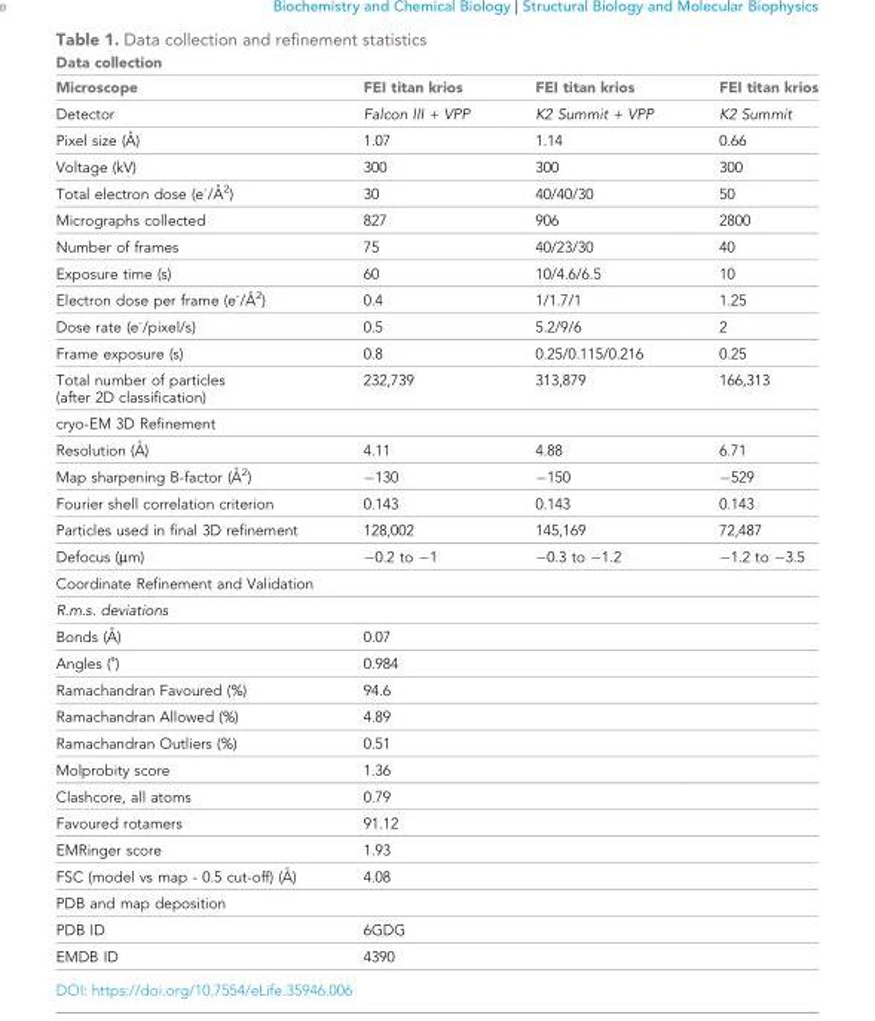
<table><thead><tr><td colspan="4">Data collection</td></tr><tr><td>Microscope</td><td>FEI titan krios</td><td>FEI titan krios</td><td>FEI titan krios</td></tr></thead><tbody><tr><td>Detector</td><td>Falcon III + VPP</td><td>K2 Summit + VPP</td><td>K2 Summit</td></tr><tr><td>Pixel size (A˚ )</td><td>1.07</td><td>1.14</td><td>0.66</td></tr><tr><td>Voltage (kV)</td><td>300</td><td>300</td><td>300</td></tr><tr><td>Total electron dose (e-/A˚ 2)</td><td>30</td><td>40/40/30</td><td>50</td></tr><tr><td>Micrographs collected</td><td>827</td><td>906</td><td>2800</td></tr><tr><td>Number of frames</td><td>75</td><td>40/23/30</td><td>40</td></tr><tr><td>Exposure time (s)</td><td>60</td><td>10/4.6/6.5</td><td>10</td></tr><tr><td>Electron dose per frame (e-/A˚ 2)</td><td>0.4</td><td>1/1.7/1</td><td>1.25</td></tr><tr><td>Dose rate (e<sup>-</sup>/pixel/s)</td><td>0.5</td><td>5.2/9/6</td><td>2</td></tr><tr><td>Frame exposure (s)</td><td>0.8</td><td>0.25/0.115/0.216</td><td>0.25</td></tr><tr><td>Total number of particles (after 2D classification)</td><td>232,739</td><td>313,879</td><td>166,313</td></tr><tr><td colspan="4">cryo-EM 3D Refinement</td></tr><tr><td>Resolution (A˚ )</td><td>4.11</td><td>4.88</td><td>6.71</td></tr><tr><td>Map sharpening B-factor (A˚ 2)</td><td>−130</td><td>−150</td><td>−529</td></tr><tr><td>Fourier shell correlation criterion</td><td>0.143</td><td>0.143</td><td>0.143</td></tr><tr><td>Particles used in final 3D refinement</td><td>128,002</td><td>145,169</td><td>72,487</td></tr><tr><td>Defocus (μm)</td><td>−0.2 to −1</td><td>−0.3 to −1.2</td><td>−1.2 to −3.5</td></tr><tr><td colspan="4">Coordinate Refinement and Validation</td></tr><tr><td colspan="4">R.m.s. deviations</td></tr><tr><td>Bonds (A˚ )</td><td>0.07</td><td></td><td></td></tr><tr><td>Angles (˚)</td><td>0.984</td><td></td><td></td></tr><tr><td>Ramachandran Favoured (%)</td><td>94.6</td><td></td><td></td></tr><tr><td>Ramachandran Allowed (%)</td><td>4.89</td><td></td><td></td></tr><tr><td>Ramachandran Outliers (%)</td><td>0.51</td><td></td><td></td></tr><tr><td>Molprobity score</td><td>1.36</td><td></td><td></td></tr><tr><td>Clashcore, all atoms</td><td>0.79</td><td></td><td></td></tr><tr><td>Favoured rotamers</td><td>91.12</td><td></td><td></td></tr><tr><td>EMRinger score</td><td>1.93</td><td></td><td></td></tr><tr><td>FSC (model vs map - 0.5 cut-off) (A˚ )</td><td>4.08</td><td></td><td></td></tr><tr><td colspan="4">PDB and map deposition</td></tr><tr><td>PDB ID</td><td>6GDG</td><td></td><td></td></tr><tr><td>EMDB ID</td><td>4390</td><td></td><td></td></tr></tbody></table>